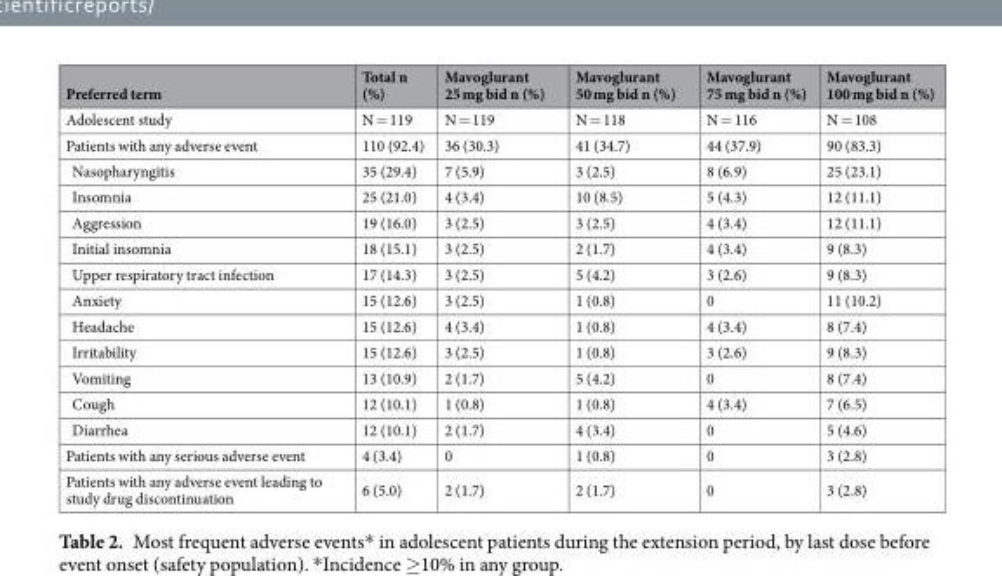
<table><thead><tr><td>Preferred term</td><td>Total n (%)</td><td>Mavoglurant 25 mg bid n (%)</td><td>Mavoglurant 50 mg bid n (%)</td><td>Mavoglurant 75 mg bid n (%)</td><td>Mavoglurant 100 mg bid n (%)</td></tr></thead><tbody><tr><td>Adolescent study</td><td>N = 119</td><td>N = 119</td><td>N = 118</td><td>N = 116</td><td>N = 108</td></tr><tr><td>Patients with any adverse event</td><td>110 (92.4)</td><td>36 (30.3)</td><td>41 (34.7)</td><td>44 (37.9)</td><td>90 (83.3)</td></tr><tr><td>Nasopharyngitis</td><td>35 (29.4)</td><td>7 (5.9)</td><td>3 (2.5)</td><td>8 (6.9)</td><td>25 (23.1)</td></tr><tr><td>Insomnia</td><td>25 (21.0)</td><td>4 (3.4)</td><td>10 (8.5)</td><td>5 (4.3)</td><td>12 (11.1)</td></tr><tr><td>Aggression</td><td>19 (16.0)</td><td>3 (2.5)</td><td>3 (2.5)</td><td>4 (3.4)</td><td>12 (11.1)</td></tr><tr><td>Initial insomnia</td><td>18 (15.1)</td><td>3 (2.5)</td><td>2 (1.7)</td><td>4 (3.4)</td><td>9 (8.3)</td></tr><tr><td>Upper respiratory tract infection</td><td>17 (14.3)</td><td>3 (2.5)</td><td>5 (4.2)</td><td>3 (2.6)</td><td>9 (8.3)</td></tr><tr><td>Anxiety</td><td>15 (12.6)</td><td>3 (2.5)</td><td>1 (0.8)</td><td>0</td><td>11 (10.2)</td></tr><tr><td>Headache</td><td>15 (12.6)</td><td>4 (3.4)</td><td>1 (0.8)</td><td>4 (3.4)</td><td>8 (7.4)</td></tr><tr><td>Irritability</td><td>15 (12.6)</td><td>3 (2.5)</td><td>1 (0.8)</td><td>3 (2.6)</td><td>9 (8.3)</td></tr><tr><td>Vomiting</td><td>13 (10.9)</td><td>2 (1.7)</td><td>5 (4.2)</td><td>0</td><td>8 (7.4)</td></tr><tr><td>Cough</td><td>12 (10.1)</td><td>1 (0.8)</td><td>1 (0.8)</td><td>4 (3.4)</td><td>7 (6.5)</td></tr><tr><td>Diarrhea</td><td>12 (10.1)</td><td>2 (1.7)</td><td>4 (3.4)</td><td>0</td><td>5 (4.6)</td></tr><tr><td>Patients with any serious adverse event</td><td>4 (3.4)</td><td>0</td><td>1 (0.8)</td><td>0</td><td>3 (2.8)</td></tr><tr><td>Patients with any adverse event leading to study drug discontinuation</td><td>6 (5.0)</td><td>2 (1.7)</td><td>2 (1.7)</td><td>0</td><td>3 (2.8)</td></tr></tbody></table>